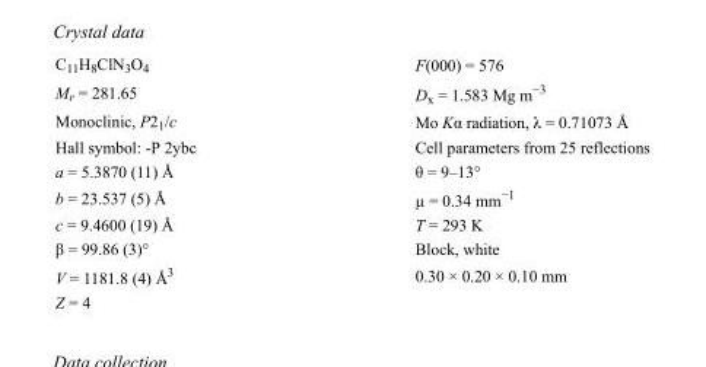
<table><tbody><tr><td>C<sub>11</sub>H<sub>8</sub>ClN<sub>3</sub>O<sub>4</sub></td><td>F(000) = 576</td></tr><tr><td>M<sub>r</sub> = 281.65</td><td>D<sub>x</sub> = 1.583 Mg m<sup>−3</sup></td></tr><tr><td>Monoclinic, P2<sub>1</sub>/c</td><td>Mo Kα radiation, λ = 0.71073 Å</td></tr><tr><td>Hall symbol: -P 2ybc</td><td>Cell parameters from 25 reflections</td></tr><tr><td>a = 5.3870 (11) Å</td><td>θ = 9–13°</td></tr><tr><td>b = 23.537 (5) Å</td><td>µ = 0.34 mm<sup>−1</sup></td></tr><tr><td>c = 9.4600 (19) Å</td><td>T = 293 K</td></tr><tr><td>β = 99.86 (3)°</td><td>Block, white</td></tr><tr><td>V = 1181.8 (4) Å<sup>3</sup></td><td>0.30 × 0.20 × 0.10 mm</td></tr><tr><td>Z = 4</td><td></td></tr></tbody></table>